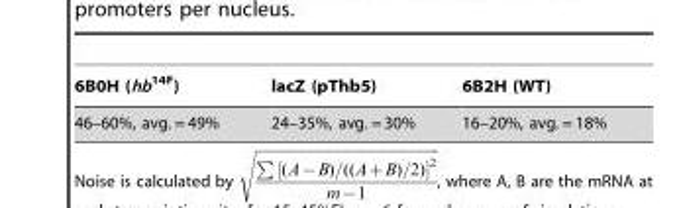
<table><thead><tr><td>6B0H (hb<sup>14F</sup>)</td><td>lacZ (pThb5)</td><td>6B2H (WT)</td></tr></thead><tbody><tr><td>46–60%, avg. = 49%</td><td>24–35%, avg. = 30%</td><td>16–20%, avg. = 18%</td></tr></tbody></table>